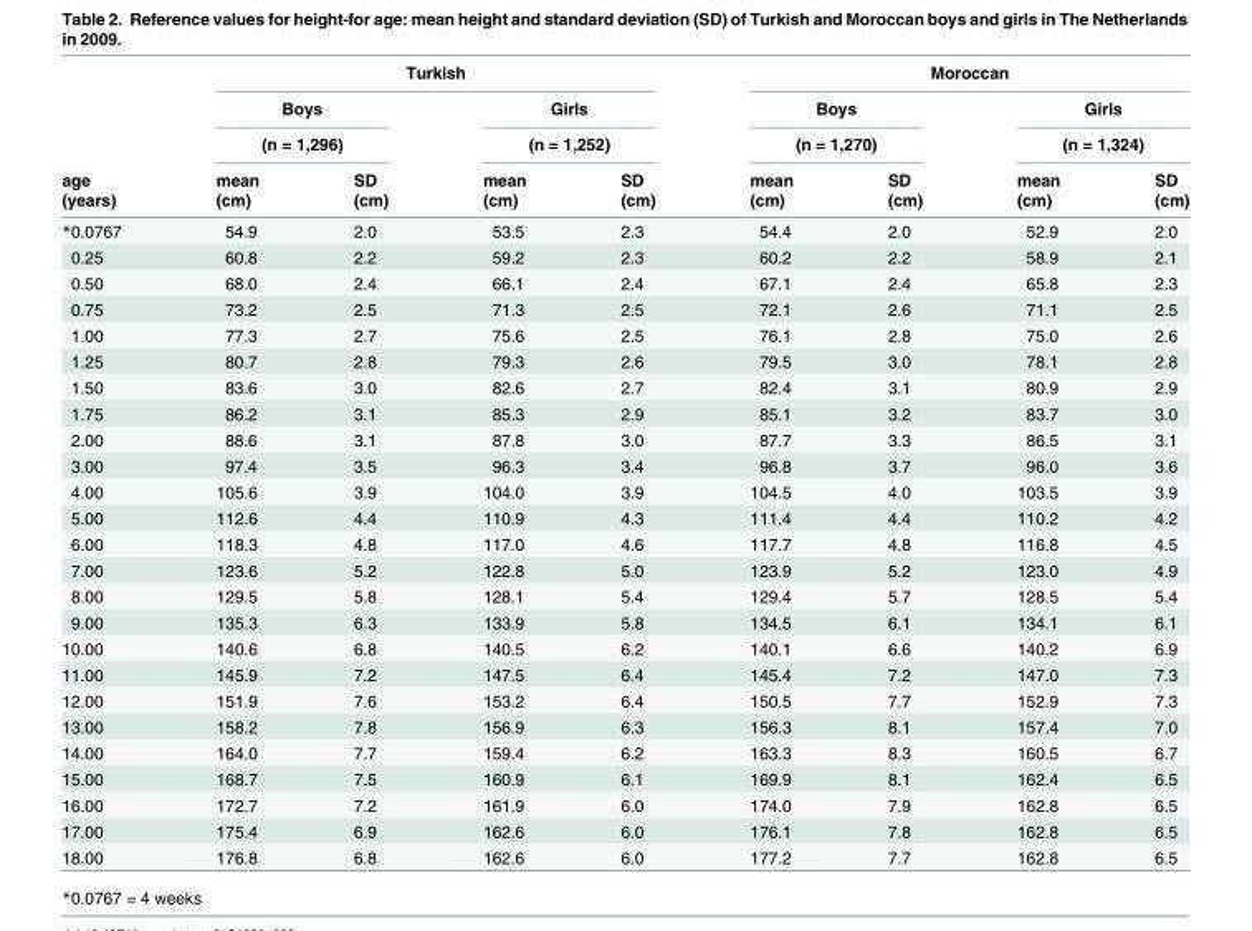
<table><thead><tr><td rowspan="5">age (years)</td><td colspan="4">Turkish</td><td colspan="4">Moroccan</td></tr><tr><td rowspan="2" colspan="2">Boys (n = 1,296)</td><td rowspan="2" colspan="2">Girls (n = 1,252)</td><td rowspan="2" colspan="2">Boys (n = 1,270)</td><td rowspan="2" colspan="2">Girls (n = 1,324)</td></tr><tr></tr><tr><td rowspan="2">mean (cm)</td><td rowspan="2">SD (cm)</td><td rowspan="2">mean (cm)</td><td rowspan="2">SD (cm)</td><td rowspan="2">mean (cm)</td><td rowspan="2">SD (cm)</td><td rowspan="2">mean (cm)</td><td rowspan="2">SD (cm)</td></tr><tr></tr></thead><tbody><tr><td>*0.0767</td><td>54.9</td><td>2.0</td><td>53.5</td><td>2.3</td><td>54.4</td><td>2.0</td><td>52.9</td><td>2.0</td></tr><tr><td>0.25</td><td>60.8</td><td>2.2</td><td>59.2</td><td>2.3</td><td>60.2</td><td>2.2</td><td>58.9</td><td>2.1</td></tr><tr><td>0.50</td><td>68.0</td><td>2.4</td><td>66.1</td><td>2.4</td><td>67.1</td><td>2.4</td><td>65.8</td><td>2.3</td></tr><tr><td>0.75</td><td>73.2</td><td>2.5</td><td>71.3</td><td>2.5</td><td>72.1</td><td>2.6</td><td>71.1</td><td>2.5</td></tr><tr><td>1.00</td><td>77.3</td><td>2.7</td><td>75.6</td><td>2.5</td><td>76.1</td><td>2.8</td><td>75.0</td><td>2.6</td></tr><tr><td>1.25</td><td>80.7</td><td>2.8</td><td>79.3</td><td>2.6</td><td>79.5</td><td>3.0</td><td>78.1</td><td>2.8</td></tr><tr><td>1.50</td><td>83.6</td><td>3.0</td><td>82.6</td><td>2.7</td><td>82.4</td><td>3.1</td><td>80.9</td><td>2.9</td></tr><tr><td>1.75</td><td>86.2</td><td>3.1</td><td>85.3</td><td>2.9</td><td>85.1</td><td>3.2</td><td>83.7</td><td>3.0</td></tr><tr><td>2.00</td><td>88.6</td><td>3.1</td><td>87.8</td><td>3.0</td><td>87.7</td><td>3.3</td><td>86.5</td><td>3.1</td></tr><tr><td>3.00</td><td>97.4</td><td>3.5</td><td>96.3</td><td>3.4</td><td>96.8</td><td>3.7</td><td>96.0</td><td>3.6</td></tr><tr><td>4.00</td><td>105.6</td><td>3.9</td><td>104.0</td><td>3.9</td><td>104.5</td><td>4.0</td><td>103.5</td><td>3.9</td></tr><tr><td>5.00</td><td>112.6</td><td>4.4</td><td>110.9</td><td>4.3</td><td>111.4</td><td>4.4</td><td>110.2</td><td>4.2</td></tr><tr><td>6.00</td><td>118.3</td><td>4.8</td><td>117.0</td><td>4.6</td><td>117.7</td><td>4.8</td><td>116.8</td><td>4.5</td></tr><tr><td>7.00</td><td>123.6</td><td>5.2</td><td>122.8</td><td>5.0</td><td>123.9</td><td>5.2</td><td>123.0</td><td>4.9</td></tr><tr><td>8.00</td><td>129.5</td><td>5.8</td><td>128.1</td><td>5.4</td><td>129.4</td><td>5.7</td><td>128.5</td><td>5.4</td></tr><tr><td>9.00</td><td>135.3</td><td>6.3</td><td>133.9</td><td>5.8</td><td>134.5</td><td>6.1</td><td>134.1</td><td>6.1</td></tr><tr><td>10.00</td><td>140.6</td><td>6.8</td><td>140.5</td><td>6.2</td><td>140.1</td><td>6.6</td><td>140.2</td><td>6.9</td></tr><tr><td>11.00</td><td>145.9</td><td>7.2</td><td>147.5</td><td>6.4</td><td>145.4</td><td>7.2</td><td>147.0</td><td>7.3</td></tr><tr><td>12.00</td><td>151.9</td><td>7.6</td><td>153.2</td><td>6.4</td><td>150.5</td><td>7.7</td><td>152.9</td><td>7.3</td></tr><tr><td>13.00</td><td>158.2</td><td>7.8</td><td>156.9</td><td>6.3</td><td>156.3</td><td>8.1</td><td>157.4</td><td>7.0</td></tr><tr><td>14.00</td><td>164.0</td><td>7.7</td><td>159.4</td><td>6.2</td><td>163.3</td><td>8.3</td><td>160.5</td><td>6.7</td></tr><tr><td>15.00</td><td>168.7</td><td>7.5</td><td>160.9</td><td>6.1</td><td>169.9</td><td>8.1</td><td>162.4</td><td>6.5</td></tr><tr><td>16.00</td><td>172.7</td><td>7.2</td><td>161.9</td><td>6.0</td><td>174.0</td><td>7.9</td><td>162.8</td><td>6.5</td></tr><tr><td>17.00</td><td>175.4</td><td>6.9</td><td>162.6</td><td>6.0</td><td>176.1</td><td>7.8</td><td>162.8</td><td>6.5</td></tr><tr><td>18.00</td><td>176.8</td><td>6.8</td><td>162.6</td><td>6.0</td><td>177.2</td><td>7.7</td><td>162.8</td><td>6.5</td></tr></tbody></table>